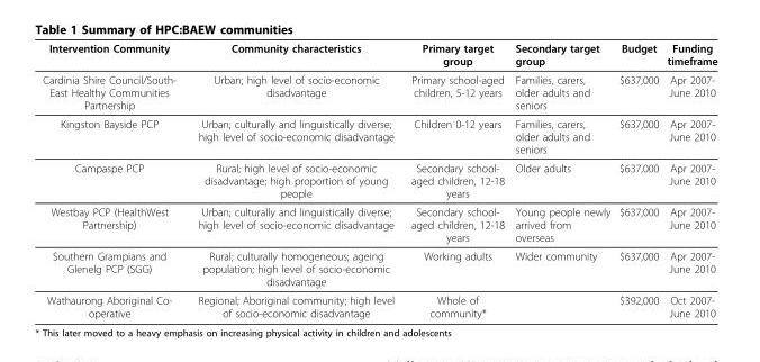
<table><thead><tr><td>Intervention Community</td><td>Community characteristics</td><td>Primary target group</td><td>Secondary target group</td><td>Budget</td><td>Funding timeframe</td></tr></thead><tbody><tr><td>Cardinia Shire Council/South- East Healthy Communities Partnership</td><td>Urban; high level of socio-economic disadvantage</td><td>Primary school-aged children, 5-12 years</td><td>Families, carers, older adults and seniors</td><td>$637,000</td><td>Apr 2007- June 2010</td></tr><tr><td>Kingston Bayside PCP</td><td>Urban; culturally and linguistically diverse; high level of socio-economic disadvantage</td><td>Children 0-12 years</td><td>Families, carers, older adults and seniors</td><td>$637,000</td><td>Apr 2007- June 2010</td></tr><tr><td>Campaspe PCP</td><td>Rural; high level of socio-economic disadvantage; high proportion of young people</td><td>Secondary school- aged children, 12-18 years</td><td>Older adults</td><td>$637,000</td><td>Apr 2007- June 2010</td></tr><tr><td>Westbay PCP (HealthWest Partnership)</td><td>Urban; culturally and linguistically diverse; high level of socio-economic disadvantage</td><td>Secondary school- aged children, 12-18 years</td><td>Young people newly arrived from overseas</td><td>$637,000</td><td>Apr 2007- June 2010</td></tr><tr><td>Southern Grampians and Glenelg PCP (SGG)</td><td>Rural; culturally homogeneous; ageing population; high level of socio-economic disadvantage</td><td>Working adults</td><td>Wider community</td><td>$637,000</td><td>Apr 2007- June 2010</td></tr><tr><td>Wathaurong Aboriginal Co- operative</td><td>Regional; Aboriginal community; high level of socio-economic disadvantage</td><td>Whole of community*</td><td></td><td>$392,000</td><td>Oct 2007- June 2010</td></tr></tbody></table>